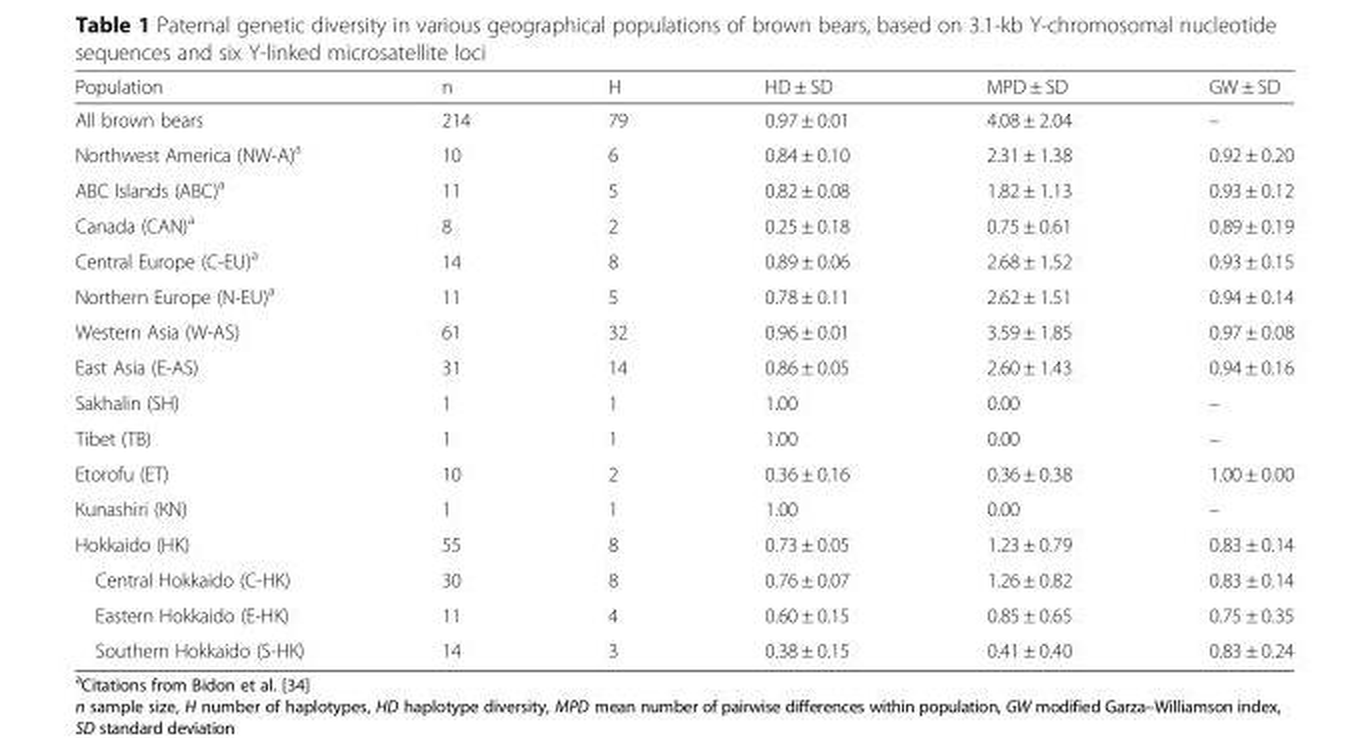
<table><thead><tr><td>Population</td><td>n</td><td>H</td><td>HD ± SD</td><td>MPD ± SD</td><td>GW ± SD</td></tr></thead><tbody><tr><td>All brown bears</td><td>214</td><td>79</td><td>0.97 ± 0.01</td><td>4.08 ± 2.04</td><td>–</td></tr><tr><td>Northwest America (NW-A)<sup>a</sup></td><td>10</td><td>6</td><td>0.84 ± 0.10</td><td>2.31 ± 1.38</td><td>0.92 ± 0.20</td></tr><tr><td>ABC Islands (ABC)<sup>a</sup></td><td>11</td><td>5</td><td>0.82 ± 0.08</td><td>1.82 ± 1.13</td><td>0.93 ± 0.12</td></tr><tr><td>Canada (CAN)<sup>a</sup></td><td>8</td><td>2</td><td>0.25 ± 0.18</td><td>0.75 ± 0.61</td><td>0.89 ± 0.19</td></tr><tr><td>Central Europe (C-EU)<sup>a</sup></td><td>14</td><td>8</td><td>0.89 ± 0.06</td><td>2.68 ± 1.52</td><td>0.93 ± 0.15</td></tr><tr><td>Northern Europe (N-EU)<sup>a</sup></td><td>11</td><td>5</td><td>0.78 ± 0.11</td><td>2.62 ± 1.51</td><td>0.94 ± 0.14</td></tr><tr><td>Western Asia (W-AS)</td><td>61</td><td>32</td><td>0.96 ± 0.01</td><td>3.59 ± 1.85</td><td>0.97 ± 0.08</td></tr><tr><td>East Asia (E-AS)</td><td>31</td><td>14</td><td>0.86 ± 0.05</td><td>2.60 ± 1.43</td><td>0.94 ± 0.16</td></tr><tr><td>Sakhalin (SH)</td><td>1</td><td>1</td><td>1.00</td><td>0.00</td><td>–</td></tr><tr><td>Tibet (TB)</td><td>1</td><td>1</td><td>1.00</td><td>0.00</td><td>–</td></tr><tr><td>Etorofu (ET)</td><td>10</td><td>2</td><td>0.36 ± 0.16</td><td>0.36 ± 0.38</td><td>1.00 ± 0.00</td></tr><tr><td>Kunashiri (KN)</td><td>1</td><td>1</td><td>1.00</td><td>0.00</td><td>–</td></tr><tr><td>Hokkaido (HK)</td><td>55</td><td>8</td><td>0.73 ± 0.05</td><td>1.23 ± 0.79</td><td>0.83 ± 0.14</td></tr><tr><td>Central Hokkaido (C-HK)</td><td>30</td><td>8</td><td>0.76 ± 0.07</td><td>1.26 ± 0.82</td><td>0.83 ± 0.14</td></tr><tr><td>Eastern Hokkaido (E-HK)</td><td>11</td><td>4</td><td>0.60 ± 0.15</td><td>0.85 ± 0.65</td><td>0.75 ± 0.35</td></tr><tr><td>Southern Hokkaido (S-HK)</td><td>14</td><td>3</td><td>0.38 ± 0.15</td><td>0.41 ± 0.40</td><td>0.83 ± 0.24</td></tr></tbody></table>